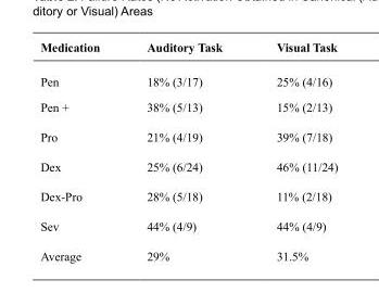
<table><thead><tr><td>Medication</td><td>Auditory Task</td><td>Visual Task</td></tr></thead><tbody><tr><td>Pen</td><td>18% (3/17)</td><td>25% (4/16)</td></tr><tr><td>Pen +</td><td>38% (5/13)</td><td>15% (2/13)</td></tr><tr><td>Pro</td><td>21% (4/19)</td><td>39% (7/18)</td></tr><tr><td>Dex</td><td>25% (6/24)</td><td>46% (11/24)</td></tr><tr><td>Dex-Pro</td><td>28% (5/18)</td><td>11% (2/18)</td></tr><tr><td>Sev</td><td>44% (4/9)</td><td>44% (4/9)</td></tr><tr><td>Average</td><td>29%</td><td>31.5%</td></tr></tbody></table>